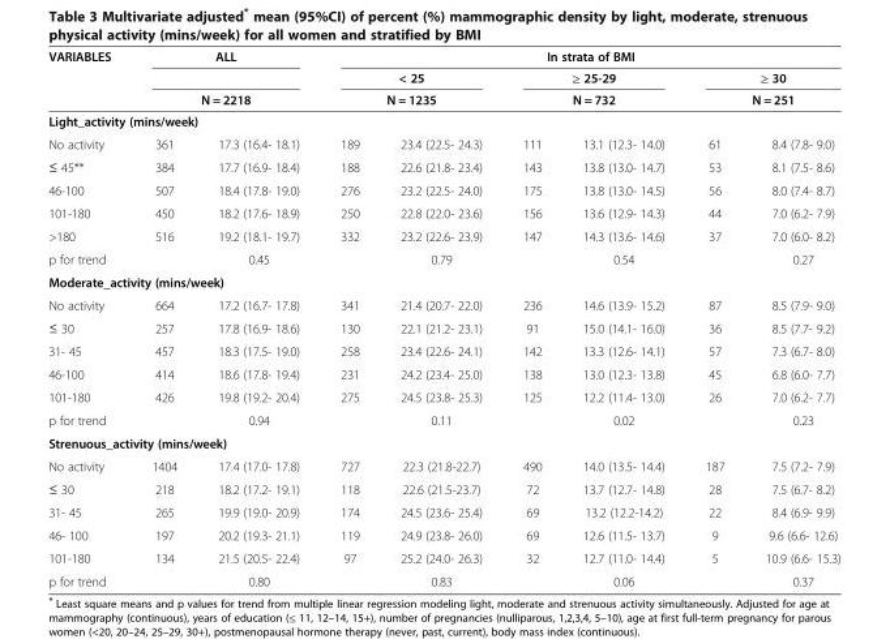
<table><thead><tr><td rowspan="3">VARIABLES</td><td colspan="2">ALL</td><td colspan="6">In strata of BMI</td></tr><tr><td></td><td></td><td rowspan="2" colspan="2">&lt; 25 N = 1235</td><td rowspan="2" colspan="2">≥ 25-29 N = 732</td><td rowspan="2" colspan="2">≥ 30 N = 251</td></tr><tr><td colspan="2">N = 2218</td></tr><tr><td colspan="9">Light_activity (mins/week)</td></tr><tr><td>No activity</td><td>361</td><td>17.3 (16.4- 18.1)</td><td>189</td><td>23.4 (22.5- 24.3)</td><td>111</td><td>13.1 (12.3- 14.0)</td><td>61</td><td>8.4 (7.8- 9.0)</td></tr></thead><tbody><tr><td>≤ 45**</td><td>384</td><td>17.7 (16.9- 18.4)</td><td>188</td><td>22.6 (21.8- 23.4)</td><td>143</td><td>13.8 (13.0- 14.7)</td><td>53</td><td>8.1 (7.5- 8.6)</td></tr><tr><td>46-100</td><td>507</td><td>18.4 (17.8- 19.0)</td><td>276</td><td>23.2 (22.5- 24.0)</td><td>175</td><td>13.8 (13.0- 14.5)</td><td>56</td><td>8.0 (7.4- 8.7)</td></tr><tr><td>101-180</td><td>450</td><td>18.2 (17.6- 18.9)</td><td>250</td><td>22.8 (22.0- 23.6)</td><td>156</td><td>13.6 (12.9- 14.3)</td><td>44</td><td>7.0 (6.2- 7.9)</td></tr><tr><td>&gt;180</td><td>516</td><td>19.2 (18.1- 19.7)</td><td>332</td><td>23.2 (22.6- 23.9)</td><td>147</td><td>14.3 (13.6- 14.6)</td><td>37</td><td>7.0 (6.0- 8.2)</td></tr><tr><td>p for trend</td><td></td><td>0.45</td><td></td><td>0.79</td><td></td><td>0.54</td><td></td><td>0.27</td></tr><tr><td colspan="9">Moderate_activity (mins/week)</td></tr><tr><td>No activity</td><td>664</td><td>17.2 (16.7- 17.8)</td><td>341</td><td>21.4 (20.7- 22.0)</td><td>236</td><td>14.6 (13.9- 15.2)</td><td>87</td><td>8.5 (7.9- 9.0)</td></tr><tr><td>≤ 30</td><td>257</td><td>17.8 (16.9- 18.6)</td><td>130</td><td>22.1 (21.2- 23.1)</td><td>91</td><td>15.0 (14.1- 16.0)</td><td>36</td><td>8.5 (7.7- 9.2)</td></tr><tr><td>31- 45</td><td>457</td><td>18.3 (17.5- 19.0)</td><td>258</td><td>23.4 (22.6- 24.1)</td><td>142</td><td>13.3 (12.6- 14.1)</td><td>57</td><td>7.3 (6.7- 8.0)</td></tr><tr><td>46-100</td><td>414</td><td>18.6 (17.8- 19.4)</td><td>231</td><td>24.2 (23.4- 25.0)</td><td>138</td><td>13.0 (12.3- 13.8)</td><td>45</td><td>6.8 (6.0- 7.7)</td></tr><tr><td>101-180</td><td>426</td><td>19.8 (19.2- 20.4)</td><td>275</td><td>24.5 (23.8- 25.3)</td><td>125</td><td>12.2 (11.4- 13.0)</td><td>26</td><td>7.0 (6.2- 7.7)</td></tr><tr><td>p for trend</td><td></td><td>0.94</td><td></td><td>0.11</td><td></td><td>0.02</td><td></td><td>0.23</td></tr><tr><td colspan="9">Strenuous_activity (mins/week)</td></tr><tr><td>No activity</td><td>1404</td><td>17.4 (17.0- 17.8)</td><td>727</td><td>22.3 (21.8-22.7)</td><td>490</td><td>14.0 (13.5- 14.4)</td><td>187</td><td>7.5 (7.2- 7.9)</td></tr><tr><td>≤ 30</td><td>218</td><td>18.2 (17.2- 19.1)</td><td>118</td><td>22.6 (21.5-23.7)</td><td>72</td><td>13.7 (12.7- 14.8)</td><td>28</td><td>7.5 (6.7- 8.2)</td></tr><tr><td>31- 45</td><td>265</td><td>19.9 (19.0- 20.9)</td><td>174</td><td>24.5 (23.6- 25.4)</td><td>69</td><td>13.2 (12.2-14.2)</td><td>22</td><td>8.4 (6.9- 9.9)</td></tr><tr><td>46- 100</td><td>197</td><td>20.2 (19.3- 21.1)</td><td>119</td><td>24.9 (23.8- 26.0)</td><td>69</td><td>12.6 (11.5- 13.7)</td><td>9</td><td>9.6 (6.6- 12.6)</td></tr><tr><td>101-180</td><td>134</td><td>21.5 (20.5- 22.4)</td><td>97</td><td>25.2 (24.0- 26.3)</td><td>32</td><td>12.7 (11.0- 14.4)</td><td>5</td><td>10.9 (6.6- 15.3)</td></tr><tr><td>p for trend</td><td></td><td>0.80</td><td></td><td>0.83</td><td></td><td>0.06</td><td></td><td>0.37</td></tr></tbody></table>